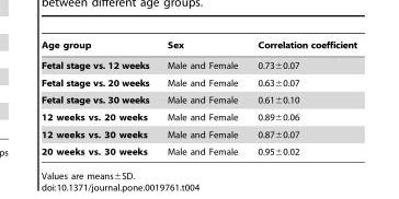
<table><thead><tr><td>Age group</td><td>Sex</td><td>Correlation coefficient</td></tr></thead><tbody><tr><td>Fetal stage vs. 12 weeks</td><td>Male and Female</td><td>0.73±0.07</td></tr><tr><td>Fetal stage vs. 20 weeks</td><td>Male and Female</td><td>0.63±0.07</td></tr><tr><td>Fetal stage vs. 30 weeks</td><td>Male and Female</td><td>0.61±0.10</td></tr><tr><td>12 weeks vs. 20 weeks</td><td>Male and Female</td><td>0.89±0.06</td></tr><tr><td>12 weeks vs. 30 weeks</td><td>Male and Female</td><td>0.87±0.07</td></tr><tr><td>20 weeks vs. 30 weeks</td><td>Male and Female</td><td>0.95±0.02</td></tr></tbody></table>